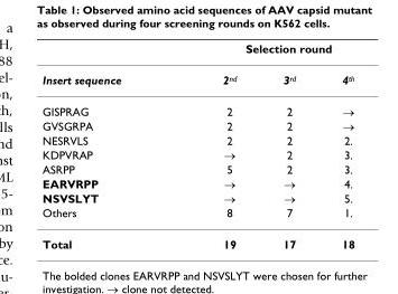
<table><thead><tr><td rowspan="2">Insert sequence</td><td colspan="3">Selection round</td></tr><tr><td>2<sup>nd</sup></td><td>3<sup>rd</sup></td><td>4<sup>th</sup></td></tr></thead><tbody><tr><td>GISPRAG</td><td>2</td><td>2</td><td>→</td></tr><tr><td>GVSGRPA</td><td>2</td><td>2</td><td>→</td></tr><tr><td>NESRVLS</td><td>2</td><td>2</td><td>2.</td></tr><tr><td>KDPVRAP</td><td>→</td><td>2</td><td>3.</td></tr><tr><td>ASRPP</td><td>5</td><td>2</td><td>3.</td></tr><tr><td>EARVRPP</td><td>→</td><td>→</td><td>4.</td></tr><tr><td>NSVSLYT</td><td>→</td><td>→</td><td>5.</td></tr><tr><td>Others</td><td>8</td><td>7</td><td>1.</td></tr><tr><td>Total</td><td>19</td><td>17</td><td>18</td></tr></tbody></table>